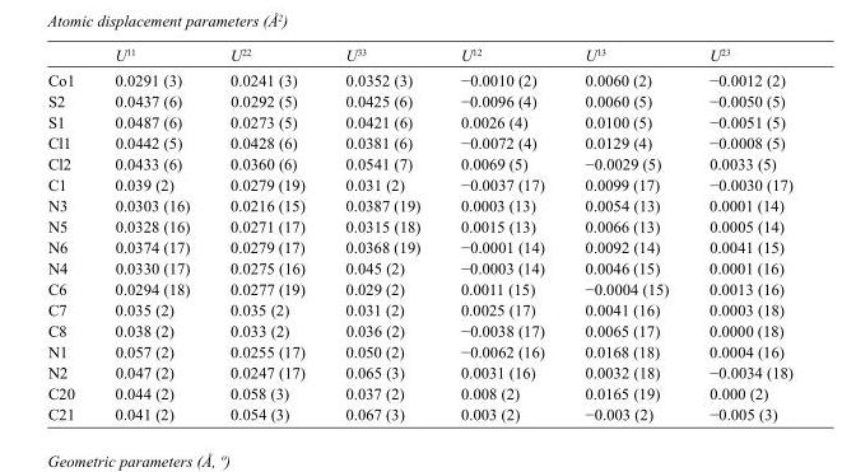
<table><thead><tr><td></td><td>U<sup>11</sup></td><td>U<sup>22</sup></td><td>U<sup>33</sup></td><td>U<sup>12</sup></td><td>U<sup>13</sup></td><td>U<sup>23</sup></td></tr></thead><tbody><tr><td>Co1</td><td>0.0291 (3)</td><td>0.0241 (3)</td><td>0.0352 (3)</td><td>−0.0010 (2)</td><td>0.0060 (2)</td><td>−0.0012 (2)</td></tr><tr><td>S2</td><td>0.0437 (6)</td><td>0.0292 (5)</td><td>0.0425 (6)</td><td>−0.0096 (4)</td><td>0.0060 (5)</td><td>−0.0050 (5)</td></tr><tr><td>S1</td><td>0.0487 (6)</td><td>0.0273 (5)</td><td>0.0421 (6)</td><td>0.0026 (4)</td><td>0.0100 (5)</td><td>−0.0051 (5)</td></tr><tr><td>Cl1</td><td>0.0442 (5)</td><td>0.0428 (6)</td><td>0.0381 (6)</td><td>−0.0072 (4)</td><td>0.0129 (4)</td><td>−0.0008 (5)</td></tr><tr><td>Cl2</td><td>0.0433 (6)</td><td>0.0360 (6)</td><td>0.0541 (7)</td><td>0.0069 (5)</td><td>−0.0029 (5)</td><td>0.0033 (5)</td></tr><tr><td>C1</td><td>0.039 (2)</td><td>0.0279 (19)</td><td>0.031 (2)</td><td>−0.0037 (17)</td><td>0.0099 (17)</td><td>−0.0030 (17)</td></tr><tr><td>N3</td><td>0.0303 (16)</td><td>0.0216 (15)</td><td>0.0387 (19)</td><td>0.0003 (13)</td><td>0.0054 (13)</td><td>0.0001 (14)</td></tr><tr><td>N5</td><td>0.0328 (16)</td><td>0.0271 (17)</td><td>0.0315 (18)</td><td>0.0015 (13)</td><td>0.0066 (13)</td><td>0.0005 (14)</td></tr><tr><td>N6</td><td>0.0374 (17)</td><td>0.0279 (17)</td><td>0.0368 (19)</td><td>−0.0001 (14)</td><td>0.0092 (14)</td><td>0.0041 (15)</td></tr><tr><td>N4</td><td>0.0330 (17)</td><td>0.0275 (16)</td><td>0.045 (2)</td><td>−0.0003 (14)</td><td>0.0046 (15)</td><td>0.0001 (16)</td></tr><tr><td>C6</td><td>0.0294 (18)</td><td>0.0277 (19)</td><td>0.029 (2)</td><td>0.0011 (15)</td><td>−0.0004 (15)</td><td>0.0013 (16)</td></tr><tr><td>C7</td><td>0.035 (2)</td><td>0.035 (2)</td><td>0.031 (2)</td><td>0.0025 (17)</td><td>0.0041 (16)</td><td>0.0003 (18)</td></tr><tr><td>C8</td><td>0.038 (2)</td><td>0.033 (2)</td><td>0.036 (2)</td><td>−0.0038 (17)</td><td>0.0065 (17)</td><td>0.0000 (18)</td></tr><tr><td>N1</td><td>0.057 (2)</td><td>0.0255 (17)</td><td>0.050 (2)</td><td>−0.0062 (16)</td><td>0.0168 (18)</td><td>0.0004 (16)</td></tr><tr><td>N2</td><td>0.047 (2)</td><td>0.0247 (17)</td><td>0.065 (3)</td><td>0.0031 (16)</td><td>0.0032 (18)</td><td>−0.0034 (18)</td></tr><tr><td>C20</td><td>0.044 (2)</td><td>0.058 (3)</td><td>0.037 (2)</td><td>0.008 (2)</td><td>0.0165 (19)</td><td>0.000 (2)</td></tr><tr><td>C21</td><td>0.041 (2)</td><td>0.054 (3)</td><td>0.067 (3)</td><td>0.003 (2)</td><td>−0.003 (2)</td><td>−0.005 (3)</td></tr></tbody></table>